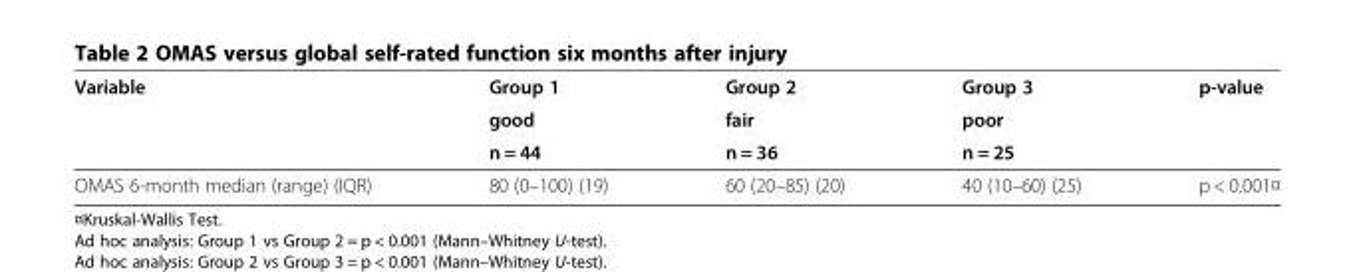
<table><thead><tr><td rowspan="3">Variable</td><td rowspan="3">Group 1 good n = 44</td><td rowspan="3">Group 2 fair n = 36</td><td rowspan="3">Group 3 poor n = 25</td><td rowspan="3">p-value</td></tr><tr></tr><tr></tr></thead><tbody><tr><td>OMAS 6-month median (range) (IQR)</td><td>80 (0–100) (19)</td><td>60 (20–85) (20)</td><td>40 (10–60) (25)</td><td>p &lt; 0.001¤</td></tr></tbody></table>